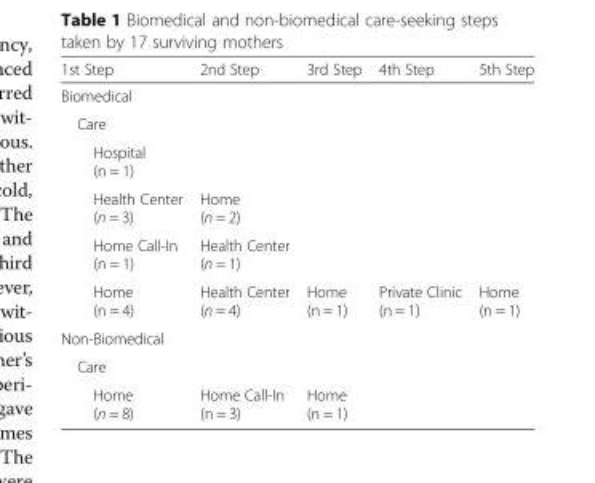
<table><thead><tr><td>1st Step</td><td>2nd Step</td><td>3rd Step</td><td>4th Step</td><td>5th Step</td></tr></thead><tbody><tr><td colspan="5">Biomedical</td></tr><tr><td colspan="5">Care</td></tr><tr><td colspan="5">Hospital (n = 1)</td></tr><tr><td>Health Center (n = 3)</td><td>Home (n = 2)</td><td></td><td></td><td></td></tr><tr><td>Home Call-In (n = 1)</td><td>Health Center (n = 1)</td><td></td><td></td><td></td></tr><tr><td>Home (n = 4)</td><td>Health Center (n = 4)</td><td>Home (n = 1)</td><td>Private Clinic (n = 1)</td><td>Home (n = 1)</td></tr><tr><td colspan="5">Non-Biomedical</td></tr><tr><td colspan="5">Care</td></tr><tr><td>Home (n = 8)</td><td>Home Call-In (n = 3)</td><td>Home (n = 1)</td><td></td><td></td></tr></tbody></table>